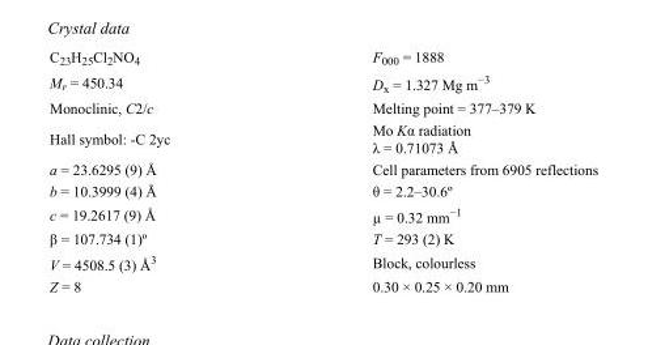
<table><tbody><tr><td>C<sub>23</sub>H<sub>25</sub>Cl<sub>2</sub>NO<sub>4</sub></td><td>F000 = 1888</td></tr><tr><td>M<sub>r</sub> = 450.34</td><td>D<sub>x</sub> = 1.327 Mg m<sup>−3</sup></td></tr><tr><td>Monoclinic, C2/c</td><td>Melting point = 377–379 K</td></tr><tr><td>Hall symbol: -C 2yc</td><td>Mo Kα radiation λ = 0.71073 Å</td></tr><tr><td>a = 23.6295 (9) Å</td><td>Cell parameters from 6905 reflections</td></tr><tr><td>b = 10.3999 (4) Å</td><td>θ = 2.2–30.6º</td></tr><tr><td>c = 19.2617 (9) Å</td><td>µ = 0.32 mm<sup>−1</sup></td></tr><tr><td>β = 107.734 (1)º</td><td>T = 293 (2) K</td></tr><tr><td>V = 4508.5 (3) Å<sup>3</sup></td><td>Block, colourless</td></tr><tr><td>Z = 8</td><td>0.30 × 0.25 × 0.20 mm</td></tr></tbody></table>